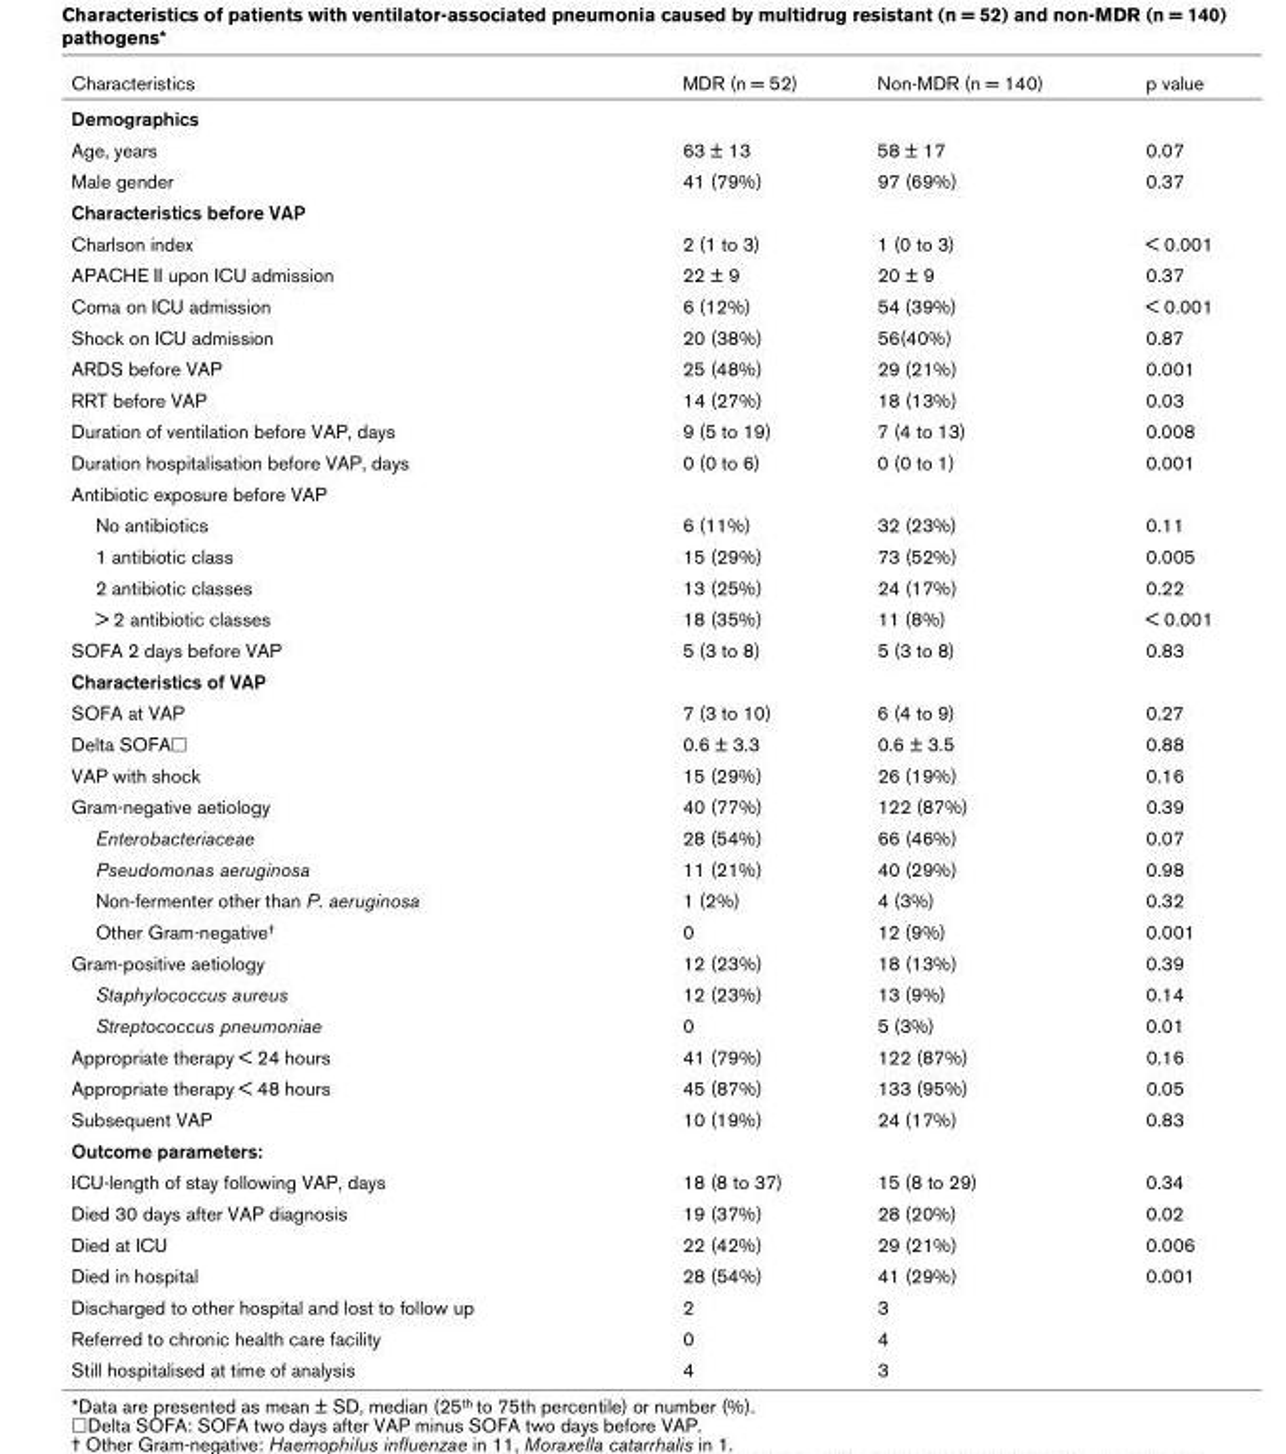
<table><thead><tr><td>Characteristics</td><td>MDR (n = 52)</td><td>Non-MDR (n = 140)</td><td>p value</td></tr></thead><tbody><tr><td colspan="4">Demographics</td></tr><tr><td>Age, years</td><td>63 ± 13</td><td>58 ± 17</td><td>0.07</td></tr><tr><td>Male gender</td><td>41 (79%)</td><td>97 (69%)</td><td>0.37</td></tr><tr><td colspan="4">Characteristics before VAP</td></tr><tr><td>Charlson index</td><td>2 (1 to 3)</td><td>1 (0 to 3)</td><td>&lt; 0.001</td></tr><tr><td>APACHE II upon ICU admission</td><td>22 ± 9</td><td>20 ± 9</td><td>0.37</td></tr><tr><td>Coma on ICU admission</td><td>6 (12%)</td><td>54 (39%)</td><td>&lt; 0.001</td></tr><tr><td>Shock on ICU admission</td><td>20 (38%)</td><td>56(40%)</td><td>0.87</td></tr><tr><td>ARDS before VAP</td><td>25 (48%)</td><td>29 (21%)</td><td>0.001</td></tr><tr><td>RRT before VAP</td><td>14 (27%)</td><td>18 (13%)</td><td>0.03</td></tr><tr><td>Duration of ventilation before VAP, days</td><td>9 (5 to 19)</td><td>7 (4 to 13)</td><td>0.008</td></tr><tr><td>Duration hospitalisation before VAP, days</td><td>0 (0 to 6)</td><td>0 (0 to 1)</td><td>0.001</td></tr><tr><td colspan="4">Antibiotic exposure before VAP</td></tr><tr><td>No antibiotics</td><td>6 (11%)</td><td>32 (23%)</td><td>0.11</td></tr><tr><td>1 antibiotic class</td><td>15 (29%)</td><td>73 (52%)</td><td>0.005</td></tr><tr><td>2 antibiotic classes</td><td>13 (25%)</td><td>24 (17%)</td><td>0.22</td></tr><tr><td>&gt; 2 antibiotic classes</td><td>18 (35%)</td><td>11 (8%)</td><td>&lt; 0.001</td></tr><tr><td>SOFA 2 days before VAP</td><td>5 (3 to 8)</td><td>5 (3 to 8)</td><td>0.83</td></tr><tr><td colspan="4">Characteristics of VAP</td></tr><tr><td>SOFA at VAP</td><td>7 (3 to 10)</td><td>6 (4 to 9)</td><td>0.27</td></tr><tr><td>Delta SOFA<sup>□</sup></td><td>0.6 ± 3.3</td><td>0.6 ± 3.5</td><td>0.88</td></tr><tr><td>VAP with shock</td><td>15 (29%)</td><td>26 (19%)</td><td>0.16</td></tr><tr><td>Gram-negative aetiology</td><td>40 (77%)</td><td>122 (87%)</td><td>0.39</td></tr><tr><td>Enterobacteriaceae</td><td>28 (54%)</td><td>66 (46%)</td><td>0.07</td></tr><tr><td>Pseudomonas aeruginosa</td><td>11 (21%)</td><td>40 (29%)</td><td>0.98</td></tr><tr><td>Non-fermenter other than P. aeruginosa</td><td>1 (2%)</td><td>4 (3%)</td><td>0.32</td></tr><tr><td>Other Gram-negative<sup>†</sup></td><td>0</td><td>12 (9%)</td><td>0.001</td></tr><tr><td>Gram-positive aetiology</td><td>12 (23%)</td><td>18 (13%)</td><td>0.39</td></tr><tr><td>Staphylococcus aureus</td><td>12 (23%)</td><td>13 (9%)</td><td>0.14</td></tr><tr><td>Streptococcus pneumoniae</td><td>0</td><td>5 (3%)</td><td>0.01</td></tr><tr><td>Appropriate therapy &lt; 24 hours</td><td>41 (79%)</td><td>122 (87%)</td><td>0.16</td></tr><tr><td>Appropriate therapy &lt; 48 hours</td><td>45 (87%)</td><td>133 (95%)</td><td>0.05</td></tr><tr><td>Subsequent VAP</td><td>10 (19%)</td><td>24 (17%)</td><td>0.83</td></tr><tr><td colspan="4">Outcome parameters:</td></tr><tr><td>ICU-length of stay following VAP, days</td><td>18 (8 to 37)</td><td>15 (8 to 29)</td><td>0.34</td></tr><tr><td>Died 30 days after VAP diagnosis</td><td>19 (37%)</td><td>28 (20%)</td><td>0.02</td></tr><tr><td>Died at ICU</td><td>22 (42%)</td><td>29 (21%)</td><td>0.006</td></tr><tr><td>Died in hospital</td><td>28 (54%)</td><td>41 (29%)</td><td>0.001</td></tr><tr><td>Discharged to other hospital and lost to follow up</td><td>2</td><td>3</td><td></td></tr><tr><td>Referred to chronic health care facility</td><td>0</td><td>4</td><td></td></tr><tr><td>Still hospitalised at time of analysis</td><td>4</td><td>3</td><td></td></tr></tbody></table>